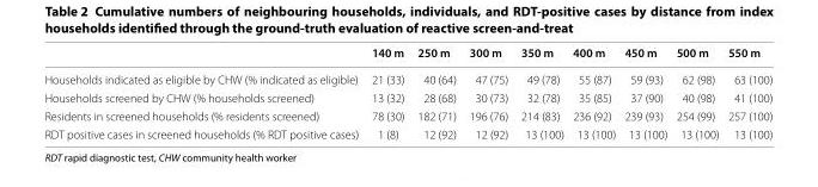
<table><thead><tr><td></td><td>140 m</td><td>250 m</td><td>300 m</td><td>350 m</td><td>400 m</td><td>450 m</td><td>500 m</td><td>550 m</td></tr></thead><tbody><tr><td>Households indicated as eligible by CHW (% indicated as eligible)</td><td>21 (33)</td><td>40 (64)</td><td>47 (75)</td><td>49 (78)</td><td>55 (87)</td><td>59 (93)</td><td>62 (98)</td><td>63 (100)</td></tr><tr><td>Households screened by CHW (% households screened)</td><td>13 (32)</td><td>28 (68)</td><td>30 (73)</td><td>32 (78)</td><td>35 (85)</td><td>37 (90)</td><td>40 (98)</td><td>41 (100)</td></tr><tr><td>Residents in screened households (% residents screened)</td><td>78 (30)</td><td>182 (71)</td><td>196 (76)</td><td>214 (83)</td><td>236 (92)</td><td>239 (93)</td><td>254 (99)</td><td>257 (100)</td></tr><tr><td>RDT positive cases in screened households (% RDT positive cases)</td><td>1 (8)</td><td>12 (92)</td><td>12 (92)</td><td>13 (100)</td><td>13 (100)</td><td>13 (100)</td><td>13 (100)</td><td>13 (100)</td></tr></tbody></table>